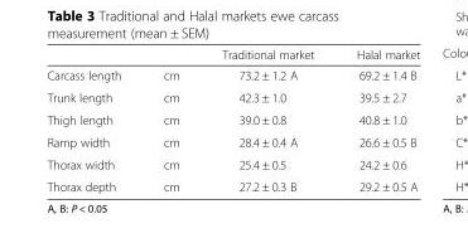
<table><thead><tr><td></td><td></td><td>Traditional market</td><td>Halal market</td></tr></thead><tbody><tr><td>Carcass length</td><td>cm</td><td>73.2 ± 1.2 A</td><td>69.2 ± 1.4 B</td></tr><tr><td>Trunk length</td><td>cm</td><td>42.3 ± 1.0</td><td>39.5 ± 2.7</td></tr><tr><td>Thigh length</td><td>cm</td><td>39.0 ± 0.8</td><td>40.8 ± 1.0</td></tr><tr><td>Ramp width</td><td>cm</td><td>28.4 ± 0.4 A</td><td>26.6 ± 0.5 B</td></tr><tr><td>Thorax width</td><td>cm</td><td>25.4 ± 0.5</td><td>24.2 ± 0.6</td></tr><tr><td>Thorax depth</td><td>cm</td><td>27.2 ± 0.3 B</td><td>29.2 ± 0.5 A</td></tr></tbody></table>